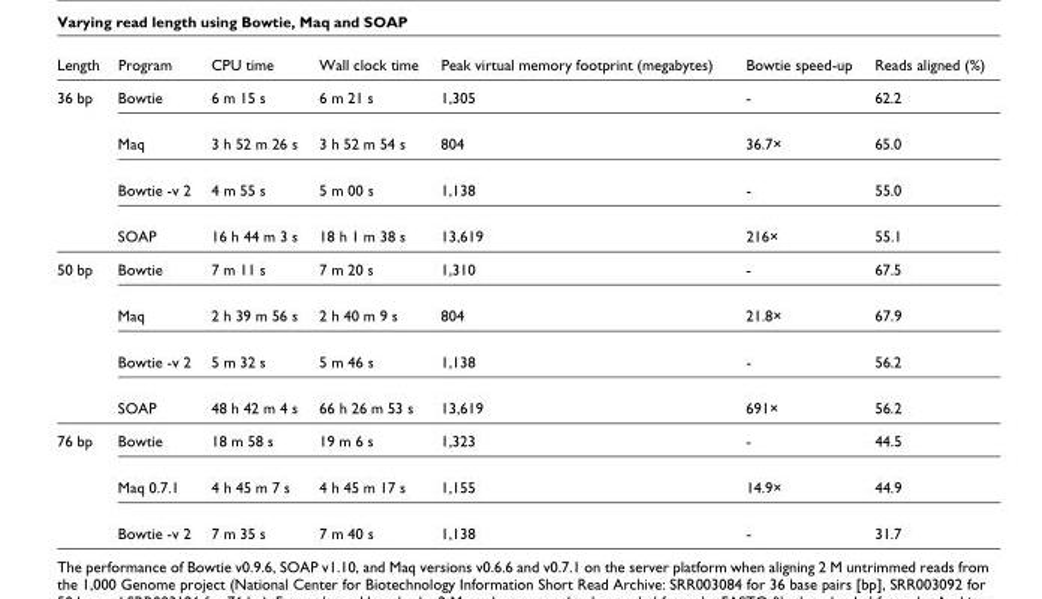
<table><thead><tr><td>Length</td><td>Program</td><td>CPU time</td><td>Wall clock time</td><td>Peak virtual memory footprint (megabytes)</td><td>Bowtie speed-up</td><td>Reads aligned (%)</td></tr></thead><tbody><tr><td rowspan="4">36 bp</td><td>Bowtie</td><td>6 m 15 s</td><td>6 m 21 s</td><td>1,305</td><td>-</td><td>62.2</td></tr><tr><td>Maq</td><td>3 h 52 m 26 s</td><td>3 h 52 m 54 s</td><td>804</td><td>36.7×</td><td>65.0</td></tr><tr><td>Bowtie -v 2</td><td>4 m 55 s</td><td>5 m 00 s</td><td>1,138</td><td>-</td><td>55.0</td></tr><tr><td>SOAP</td><td>16 h 44 m 3 s</td><td>18 h 1 m 38 s</td><td>13,619</td><td>216×</td><td>55.1</td></tr><tr><td rowspan="4">50 bp</td><td>Bowtie</td><td>7 m 11 s</td><td>7 m 20 s</td><td>1,310</td><td>-</td><td>67.5</td></tr><tr><td>Maq</td><td>2 h 39 m 56 s</td><td>2 h 40 m 9 s</td><td>804</td><td>21.8×</td><td>67.9</td></tr><tr><td>Bowtie -v 2</td><td>5 m 32 s</td><td>5 m 46 s</td><td>1,138</td><td>-</td><td>56.2</td></tr><tr><td>SOAP</td><td>48 h 42 m 4 s</td><td>66 h 26 m 53 s</td><td>13,619</td><td>691×</td><td>56.2</td></tr><tr><td rowspan="3">76 bp</td><td>Bowtie</td><td>18 m 58 s</td><td>19 m 6 s</td><td>1,323</td><td>-</td><td>44.5</td></tr><tr><td>Maq 0.7.1</td><td>4 h 45 m 7 s</td><td>4 h 45 m 17 s</td><td>1,155</td><td>14.9×</td><td>44.9</td></tr><tr><td>Bowtie -v 2</td><td>7 m 35 s</td><td>7 m 40 s</td><td>1,138</td><td>-</td><td>31.7</td></tr></tbody></table>